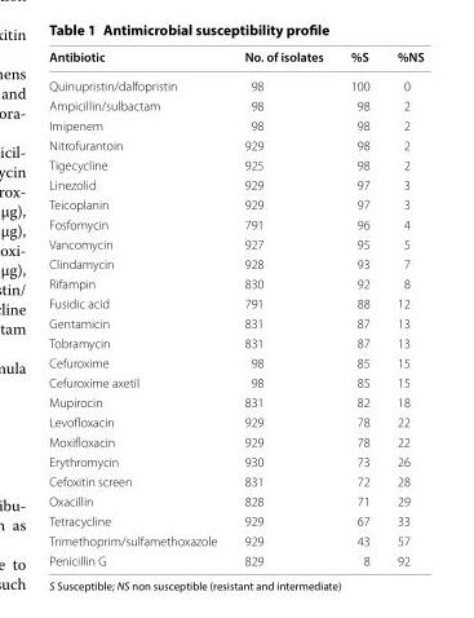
<table><thead><tr><td>Antibiotic</td><td>No. of isolates</td><td>%S</td><td>%NS</td></tr></thead><tbody><tr><td>Quinupristin/dalfopristin</td><td>98</td><td>100</td><td>0</td></tr><tr><td>Ampicillin/sulbactam</td><td>98</td><td>98</td><td>2</td></tr><tr><td>Imipenem</td><td>98</td><td>98</td><td>2</td></tr><tr><td>Nitrofurantoin</td><td>929</td><td>98</td><td>2</td></tr><tr><td>Tigecycline</td><td>925</td><td>98</td><td>2</td></tr><tr><td>Linezolid</td><td>929</td><td>97</td><td>3</td></tr><tr><td>Teicoplanin</td><td>929</td><td>97</td><td>3</td></tr><tr><td>Fosfomycin</td><td>791</td><td>96</td><td>4</td></tr><tr><td>Vancomycin</td><td>927</td><td>95</td><td>5</td></tr><tr><td>Clindamycin</td><td>928</td><td>93</td><td>7</td></tr><tr><td>Rifampin</td><td>830</td><td>92</td><td>8</td></tr><tr><td>Fusidic acid</td><td>791</td><td>88</td><td>12</td></tr><tr><td>Gentamicin</td><td>831</td><td>87</td><td>13</td></tr><tr><td>Tobramycin</td><td>831</td><td>87</td><td>13</td></tr><tr><td>Cefuroxime</td><td>98</td><td>85</td><td>15</td></tr><tr><td>Cefuroxime axetil</td><td>98</td><td>85</td><td>15</td></tr><tr><td>Mupirocin</td><td>831</td><td>82</td><td>18</td></tr><tr><td>Levofloxacin</td><td>929</td><td>78</td><td>22</td></tr><tr><td>Moxifloxacin</td><td>929</td><td>78</td><td>22</td></tr><tr><td>Erythromycin</td><td>930</td><td>73</td><td>26</td></tr><tr><td>Cefoxitin screen</td><td>831</td><td>72</td><td>28</td></tr><tr><td>Oxacillin</td><td>828</td><td>71</td><td>29</td></tr><tr><td>Tetracycline</td><td>929</td><td>67</td><td>33</td></tr><tr><td>Trimethoprim/sulfamethoxazole</td><td>929</td><td>43</td><td>57</td></tr><tr><td>Penicillin G</td><td>829</td><td>8</td><td>92</td></tr></tbody></table>